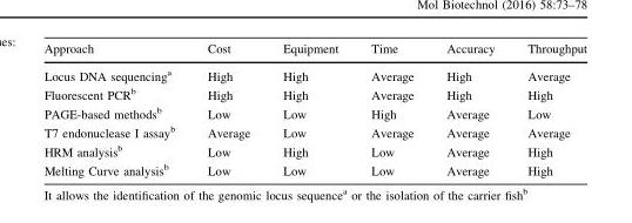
<table><thead><tr><td>Approach</td><td>Cost</td><td>Equipment</td><td>Time</td><td>Accuracy</td><td>Throughput</td></tr></thead><tbody><tr><td>Locus DNA sequencing<sup>a</sup></td><td>High</td><td>High</td><td>Average</td><td>High</td><td>Average</td></tr><tr><td>Fluorescent PCR<sup>b</sup></td><td>High</td><td>High</td><td>Average</td><td>High</td><td>High</td></tr><tr><td>PAGE-based methods<sup>b</sup></td><td>Low</td><td>Low</td><td>High</td><td>Average</td><td>Low</td></tr><tr><td>T7 endonuclease I assay<sup>b</sup></td><td>Average</td><td>Low</td><td>Average</td><td>Average</td><td>Average</td></tr><tr><td>HRM analysis<sup>b</sup></td><td>Low</td><td>High</td><td>Low</td><td>Average</td><td>High</td></tr><tr><td>Melting Curve analysis<sup>b</sup></td><td>Low</td><td>Low</td><td>Low</td><td>Average</td><td>High</td></tr></tbody></table>